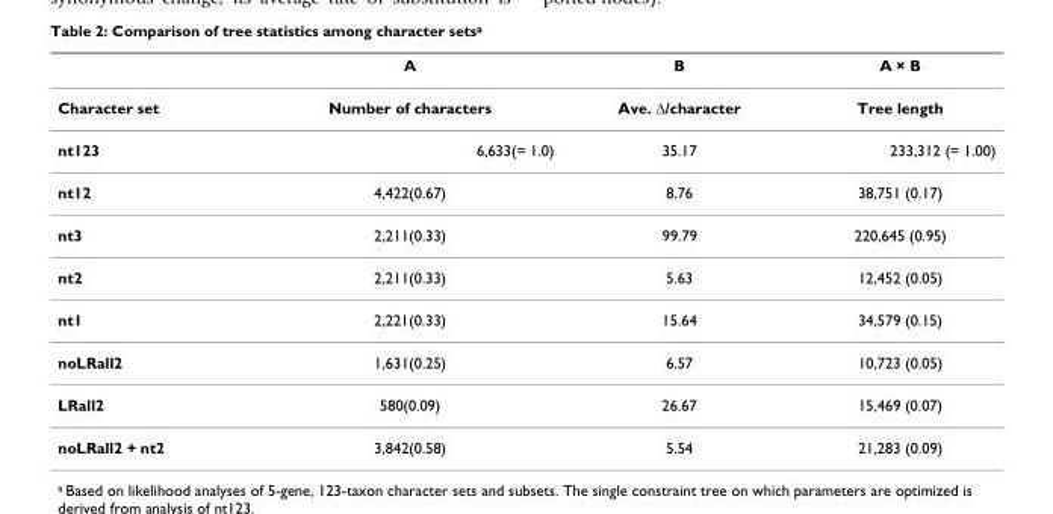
<table><thead><tr><td></td><td>A</td><td>B</td><td>A × B</td></tr></thead><tbody><tr><td>Character set</td><td>Number of characters</td><td>Ave. Δ/character</td><td>Tree length</td></tr><tr><td>nt123</td><td>6,633(= 1.0)</td><td>35.17</td><td>233,312 (= 1.00)</td></tr><tr><td>nt12</td><td>4,422(0.67)</td><td>8.76</td><td>38,751 (0.17)</td></tr><tr><td>nt3</td><td>2,211(0.33)</td><td>99.79</td><td>220,645 (0.95)</td></tr><tr><td>nt2</td><td>2,211(0.33)</td><td>5.63</td><td>12,452 (0.05)</td></tr><tr><td>nt1</td><td>2,221(0.33)</td><td>15.64</td><td>34,579 (0.15)</td></tr><tr><td>noLRall2</td><td>1,631(0.25)</td><td>6.57</td><td>10,723 (0.05)</td></tr><tr><td>LRall2</td><td>580(0.09)</td><td>26.67</td><td>15,469 (0.07)</td></tr><tr><td>noLRall2 + nt2</td><td>3,842(0.58)</td><td>5.54</td><td>21,283 (0.09)</td></tr></tbody></table>